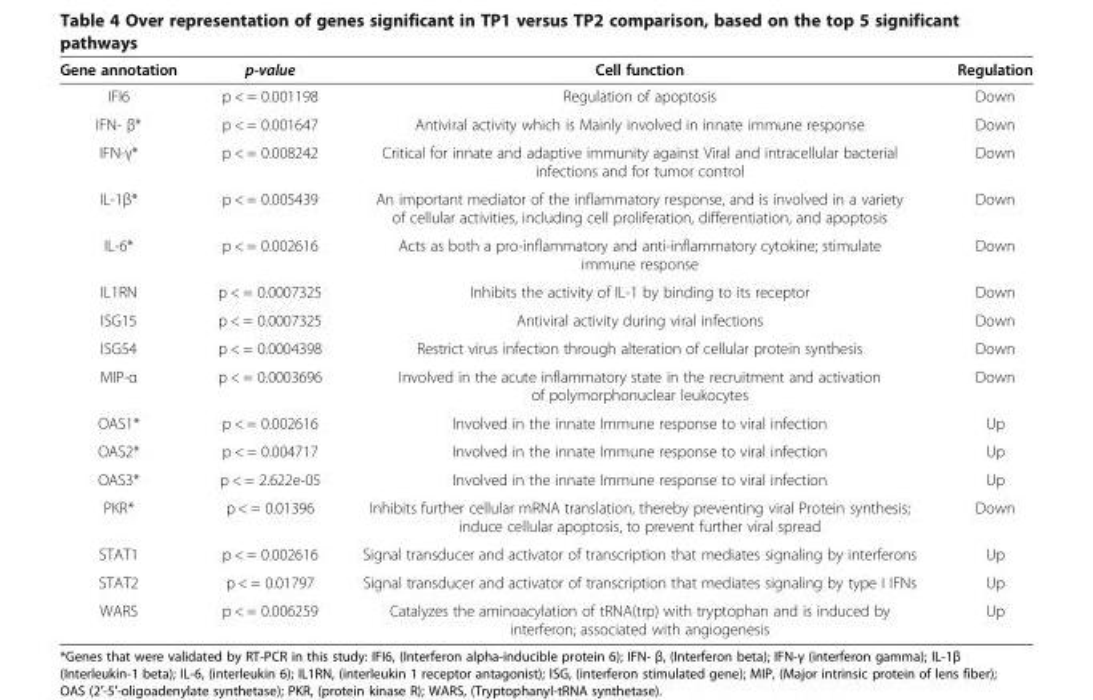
<table><thead><tr><td>Gene annotation</td><td>p-value</td><td>Cell function</td><td>Regulation</td></tr></thead><tbody><tr><td>IFI6</td><td>p &lt; = 0.001198</td><td>Regulation of apoptosis</td><td>Down</td></tr><tr><td>IFN- β*</td><td>p &lt; = 0.001647</td><td>Antiviral activity which is Mainly involved in innate immune response</td><td>Down</td></tr><tr><td>IFN-γ*</td><td>p &lt; = 0.008242</td><td>Critical for innate and adaptive immunity against Viral and intracellular bacterial infections and for tumor control</td><td>Down</td></tr><tr><td>IL-1β*</td><td>p &lt; = 0.005439</td><td>An important mediator of the inflammatory response, and is involved in a variety of cellular activities, including cell proliferation, differentiation, and apoptosis</td><td>Down</td></tr><tr><td>IL-6*</td><td>p &lt; = 0.002616</td><td>Acts as both a pro-inflammatory and anti-inflammatory cytokine; stimulate immune response</td><td>Down</td></tr><tr><td>IL1RN</td><td>p &lt; = 0.0007325</td><td>Inhibits the activity of IL-1 by binding to its receptor</td><td>Down</td></tr><tr><td>ISG15</td><td>p &lt; = 0.0007325</td><td>Antiviral activity during viral infections</td><td>Down</td></tr><tr><td>ISG54</td><td>p &lt; = 0.0004398</td><td>Restrict virus infection through alteration of cellular protein synthesis</td><td>Down</td></tr><tr><td>MIP-α</td><td>p &lt; = 0.0003696</td><td>Involved in the acute inflammatory state in the recruitment and activation of polymorphonuclear leukocytes</td><td>Down</td></tr><tr><td>OAS1*</td><td>p &lt; = 0.002616</td><td>Involved in the innate Immune response to viral infection</td><td>Up</td></tr><tr><td>OAS2*</td><td>p &lt; = 0.004717</td><td>Involved in the innate Immune response to viral infection</td><td>Up</td></tr><tr><td>OAS3*</td><td>p &lt; = 2.622e-05</td><td>Involved in the innate Immune response to viral infection</td><td>Up</td></tr><tr><td>PKR*</td><td>p &lt; = 0.01396</td><td>Inhibits further cellular mRNA translation, thereby preventing viral Protein synthesis; induce cellular apoptosis, to prevent further viral spread</td><td>Down</td></tr><tr><td>STAT1</td><td>p &lt; = 0.002616</td><td>Signal transducer and activator of transcription that mediates signaling by interferons</td><td>Up</td></tr><tr><td>STAT2</td><td>p &lt; = 0.01797</td><td>Signal transducer and activator of transcription that mediates signaling by type I IFNs</td><td>Up</td></tr><tr><td>WARS</td><td>p &lt; = 0.006259</td><td>Catalyzes the aminoacylation of tRNA(trp) with tryptophan and is induced by interferon; associated with angiogenesis</td><td>Up</td></tr></tbody></table>